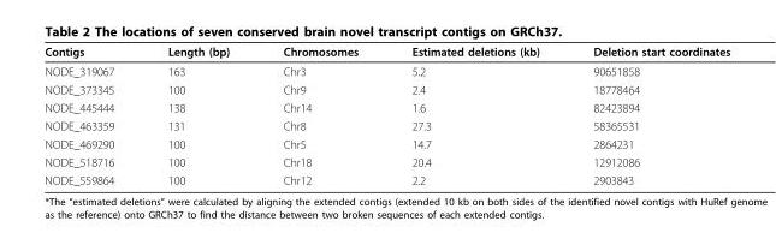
<table><thead><tr><td>Contigs</td><td>Length (bp)</td><td>Chromosomes</td><td>Estimated deletions (kb)</td><td>Deletion start coordinates</td></tr></thead><tbody><tr><td>NODE_319067</td><td>163</td><td>Chr3</td><td>5.2</td><td>90651858</td></tr><tr><td>NODE_373345</td><td>100</td><td>Chr9</td><td>2.4</td><td>18778464</td></tr><tr><td>NODE_445444</td><td>138</td><td>Chr14</td><td>1.6</td><td>82423894</td></tr><tr><td>NODE_463359</td><td>131</td><td>Chr8</td><td>27.3</td><td>58365531</td></tr><tr><td>NODE_469290</td><td>100</td><td>Chr5</td><td>14.7</td><td>2864231</td></tr><tr><td>NODE_518716</td><td>100</td><td>Chr18</td><td>20.4</td><td>12912086</td></tr><tr><td>NODE_559864</td><td>100</td><td>Chr12</td><td>2.2</td><td>2903843</td></tr></tbody></table>